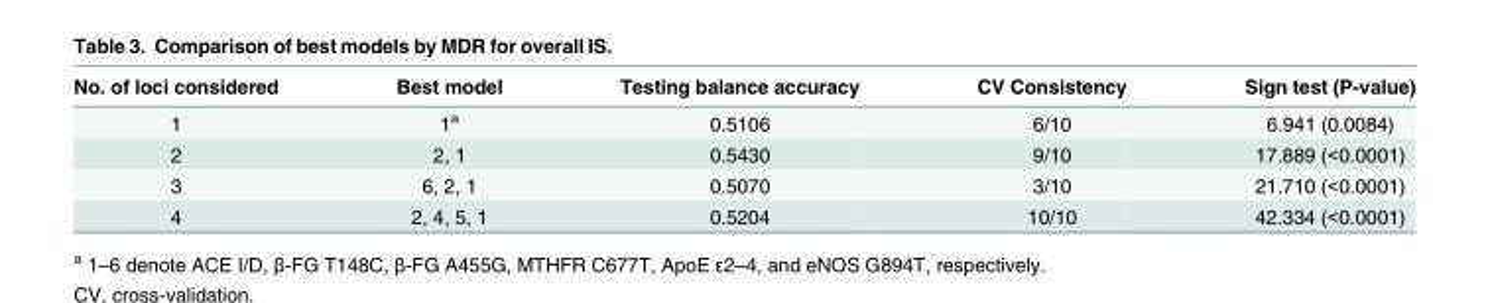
<table><thead><tr><td>No. of loci considered</td><td>Best model</td><td>Testing balance accuracy</td><td>CV Consistency</td><td>Sign test (P-value)</td></tr></thead><tbody><tr><td>1</td><td>1<sup>a</sup></td><td>0.5106</td><td>6/10</td><td>6.941 (0.0084)</td></tr><tr><td>2</td><td>2, 1</td><td>0.5430</td><td>9/10</td><td>17.889 (&lt;0.0001)</td></tr><tr><td>3</td><td>6, 2, 1</td><td>0.5070</td><td>3/10</td><td>21.710 (&lt;0.0001)</td></tr><tr><td>4</td><td>2, 4, 5, 1</td><td>0.5204</td><td>10/10</td><td>42.334 (&lt;0.0001)</td></tr></tbody></table>